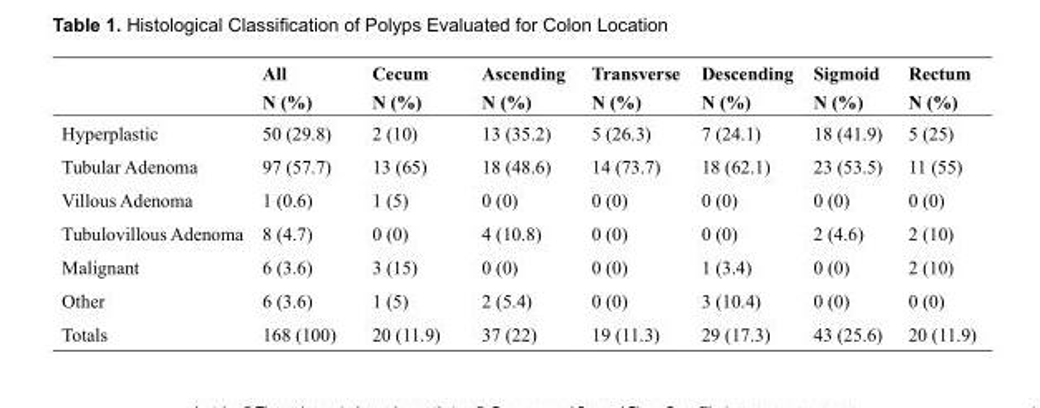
<table><thead><tr><td rowspan="2"></td><td rowspan="2">All N (%)</td><td rowspan="2">Cecum N (%)</td><td rowspan="2">Ascending N (%)</td><td rowspan="2">Transverse N (%)</td><td rowspan="2">Descending N (%)</td><td rowspan="2">Sigmoid N (%)</td><td rowspan="2">Rectum N (%)</td></tr><tr></tr></thead><tbody><tr><td>Hyperplastic</td><td>50 (29.8)</td><td>2 (10)</td><td>13 (35.2)</td><td>5 (26.3)</td><td>7 (24.1)</td><td>18 (41.9)</td><td>5 (25)</td></tr><tr><td>Tubular Adenoma</td><td>97 (57.7)</td><td>13 (65)</td><td>18 (48.6)</td><td>14 (73.7)</td><td>18 (62.1)</td><td>23 (53.5)</td><td>11 (55)</td></tr><tr><td>Villous Adenoma</td><td>1 (0.6)</td><td>1 (5)</td><td>0 (0)</td><td>0 (0)</td><td>0 (0)</td><td>0 (0)</td><td>0 (0)</td></tr><tr><td>Tubulovillous Adenoma</td><td>8 (4.7)</td><td>0 (0)</td><td>4 (10.8)</td><td>0 (0)</td><td>0 (0)</td><td>2 (4.6)</td><td>2 (10)</td></tr><tr><td>Malignant</td><td>6 (3.6)</td><td>3 (15)</td><td>0 (0)</td><td>0 (0)</td><td>1 (3.4)</td><td>0 (0)</td><td>2 (10)</td></tr><tr><td>Other</td><td>6 (3.6)</td><td>1 (5)</td><td>2 (5.4)</td><td>0 (0)</td><td>3 (10.4)</td><td>0 (0)</td><td>0 (0)</td></tr><tr><td>Totals</td><td>168 (100)</td><td>20 (11.9)</td><td>37 (22)</td><td>19 (11.3)</td><td>29 (17.3)</td><td>43 (25.6)</td><td>20 (11.9)</td></tr></tbody></table>